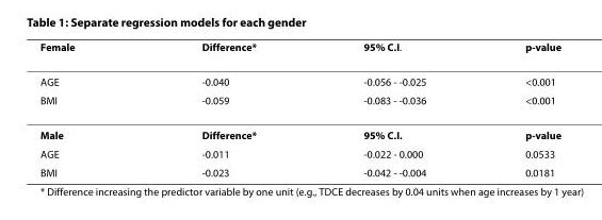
<table><thead><tr><td>Female</td><td>Difference*</td><td>95% C.I.</td><td>p-value</td></tr></thead><tbody><tr><td>AGE</td><td>-0.040</td><td>-0.056 - -0.025</td><td>&lt;0.001</td></tr><tr><td>BMI</td><td>-0.059</td><td>-0.083 - -0.036</td><td>&lt;0.001</td></tr><tr><td>Male</td><td>Difference*</td><td>95% C.I.</td><td>p-value</td></tr><tr><td>AGE</td><td>-0.011</td><td>-0.022 - 0.000</td><td>0.0533</td></tr><tr><td>BMI</td><td>-0.023</td><td>-0.042 - -0.004</td><td>0.0181</td></tr></tbody></table>